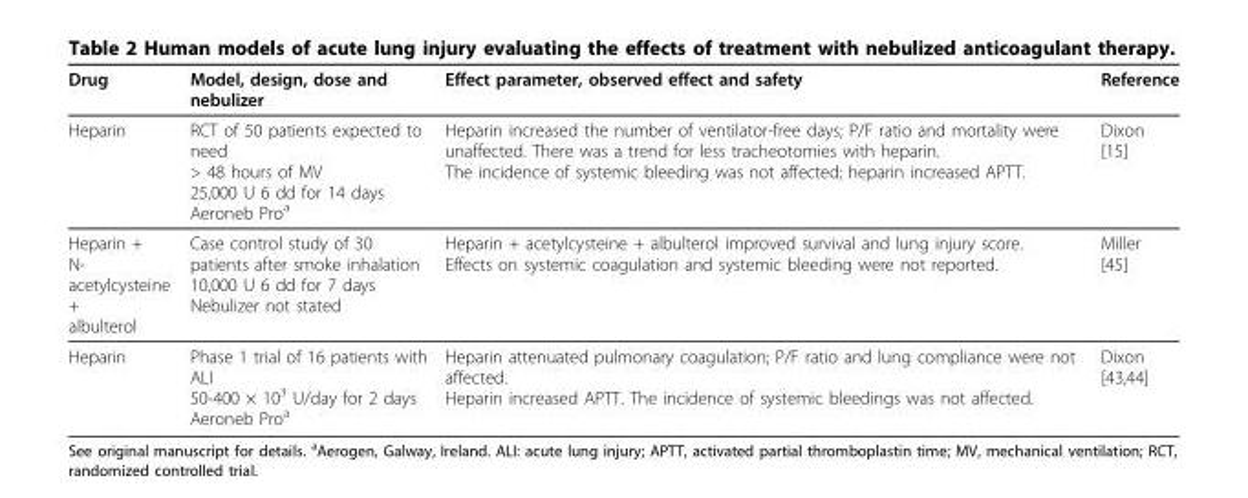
<table><thead><tr><td>Drug</td><td>Model, design, dose and nebulizer</td><td>Effect parameter, observed effect and safety</td><td>Reference</td></tr></thead><tbody><tr><td>Heparin</td><td>RCT of 50 patients expected to need &gt; 48 hours of MV 25,000 U 6 dd for 14 days Aeroneb Pro<sup>a</sup></td><td>Heparin increased the number of ventilator-free days; P/F ratio and mortality were unaffected. There was a trend for less tracheotomies with heparin. The incidence of systemic bleeding was not affected; heparin increased APTT.</td><td>Dixon [15]</td></tr><tr><td>Heparin + N- acetylcysteine + albulterol</td><td>Case control study of 30 patients after smoke inhalation 10,000 U 6 dd for 7 days Nebulizer not stated</td><td>Heparin + acetylcysteine + albulterol improved survival and lung injury score. Effects on systemic coagulation and systemic bleeding were not reported.</td><td>Miller [45]</td></tr><tr><td>Heparin</td><td>Phase 1 trial of 16 patients with ALI 50-400 × 10<sup>3</sup> U/day for 2 days Aeroneb Pro<sup>a</sup></td><td>Heparin attenuated pulmonary coagulation; P/F ratio and lung compliance were not affected. Heparin increased APTT. The incidence of systemic bleedings was not affected.</td><td>Dixon [43,44]</td></tr></tbody></table>